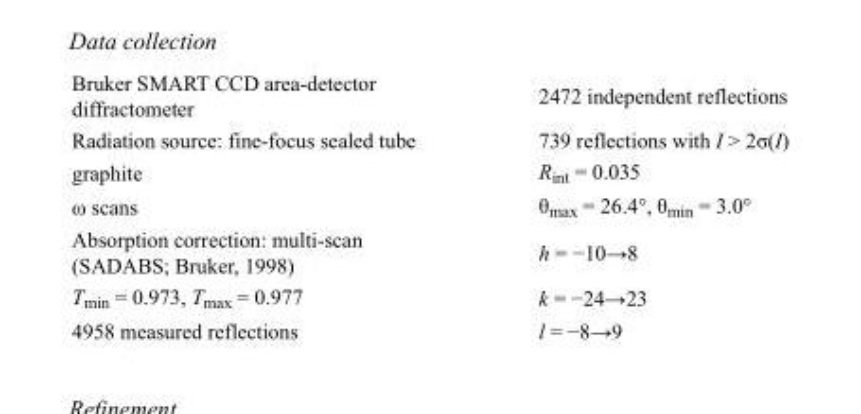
<table><tbody><tr><td>Bruker SMART CCD area-detector diffractometer</td><td>2472 independent reflections</td></tr><tr><td>Radiation source: fine-focus sealed tube</td><td>739 reflections with I &gt; 2σ(I)</td></tr><tr><td>graphite</td><td>R<sub>int</sub> = 0.035</td></tr><tr><td>ω scans</td><td>θ<sub>max</sub> = 26.4°, θ<sub>min</sub> = 3.0°</td></tr><tr><td>Absorption correction: multi-scan (SADABS; Bruker, 1998)</td><td>h = −10→8</td></tr><tr><td>T<sub>min</sub> = 0.973, T<sub>max</sub> = 0.977</td><td>k = −24→23</td></tr><tr><td>4958 measured reflections</td><td>l = −8→9</td></tr></tbody></table>